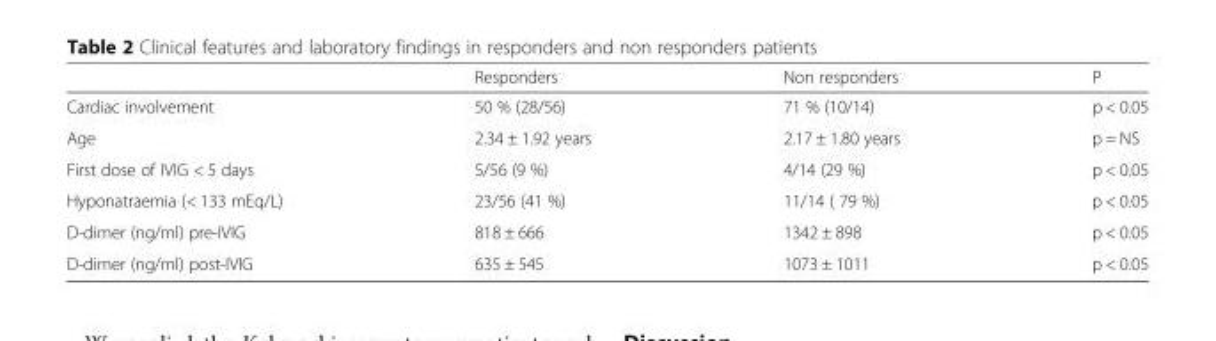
<table><thead><tr><td></td><td>Responders</td><td>Non responders</td><td>P</td></tr></thead><tbody><tr><td>Cardiac involvement</td><td>50 % (28/56)</td><td>71 % (10/14)</td><td>p &lt; 0.05</td></tr><tr><td>Age</td><td>2.34 ± 1.92 years</td><td>2.17 ± 1.80 years</td><td>p = NS</td></tr><tr><td>First dose of IVIG &lt; 5 days</td><td>5/56 (9 %)</td><td>4/14 (29 %)</td><td>p &lt; 0.05</td></tr><tr><td>Hyponatraemia (&lt; 133 mEq/L)</td><td>23/56 (41 %)</td><td>11/14 ( 79 %)</td><td>p &lt; 0.05</td></tr><tr><td>D-dimer (ng/ml) pre-IVIG</td><td>818 ± 666</td><td>1342 ± 898</td><td>p &lt; 0.05</td></tr><tr><td>D-dimer (ng/ml) post-IVIG</td><td>635 ± 545</td><td>1073 ± 1011</td><td>p &lt; 0.05</td></tr></tbody></table>